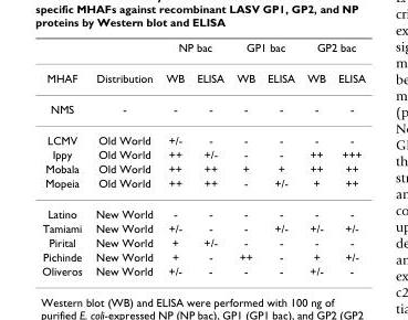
<table><thead><tr><td rowspan="2">MHAF</td><td rowspan="2">Distribution</td><td colspan="2">NP bac</td><td colspan="2">GP1 bac</td><td colspan="2">GP2 bac</td></tr><tr><td>WB</td><td>ELISA</td><td>WB</td><td>ELISA</td><td>WB</td><td>ELISA</td></tr></thead><tbody><tr><td>NMS</td><td>-</td><td>-</td><td>-</td><td>-</td><td>-</td><td>-</td><td>-</td></tr><tr><td>LCMV</td><td>Old World</td><td>+/-</td><td>-</td><td>-</td><td>-</td><td>-</td><td>-</td></tr><tr><td>Ippy</td><td>Old World</td><td>++</td><td>+/-</td><td>-</td><td>-</td><td>++</td><td>+++</td></tr><tr><td>Mobala</td><td>Old World</td><td>++</td><td>++</td><td>+</td><td>+</td><td>++</td><td>++</td></tr><tr><td>Mopeia</td><td>Old World</td><td>++</td><td>++</td><td>-</td><td>+/-</td><td>+</td><td>++</td></tr><tr><td>Latino</td><td>New World</td><td>-</td><td>-</td><td>-</td><td>-</td><td>-</td><td>-</td></tr><tr><td>Tamiami</td><td>New World</td><td>+/-</td><td>-</td><td>-</td><td>+/-</td><td>+/-</td><td>+/-</td></tr><tr><td>Pirital</td><td>New World</td><td>+</td><td>+/-</td><td>-</td><td>-</td><td>-</td><td>-</td></tr><tr><td>Pichinde</td><td>New World</td><td>+</td><td>-</td><td>++</td><td>-</td><td>+</td><td>+/-</td></tr><tr><td>Oliveros</td><td>New World</td><td>+/-</td><td>-</td><td>-</td><td>-</td><td>+/-</td><td>-</td></tr></tbody></table>